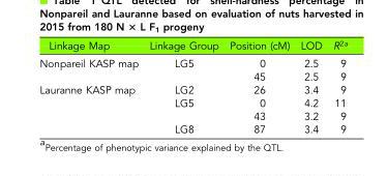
<table><thead><tr><td>Linkage Map</td><td>Linkage Group</td><td>Position (cM)</td><td>LOD</td><td>R<sup>2a</sup></td></tr></thead><tbody><tr><td rowspan="2">Nonpareil KASP map</td><td>LG5</td><td>0</td><td>2.5</td><td>9</td></tr><tr><td></td><td>45</td><td>2.5</td><td>9</td></tr><tr><td rowspan="4">Lauranne KASP map</td><td>LG2</td><td>26</td><td>3.4</td><td>9</td></tr><tr><td>LG5</td><td>0</td><td>4.2</td><td>11</td></tr><tr><td></td><td>43</td><td>3.2</td><td>9</td></tr><tr><td>LG8</td><td>87</td><td>3.4</td><td>9</td></tr></tbody></table>